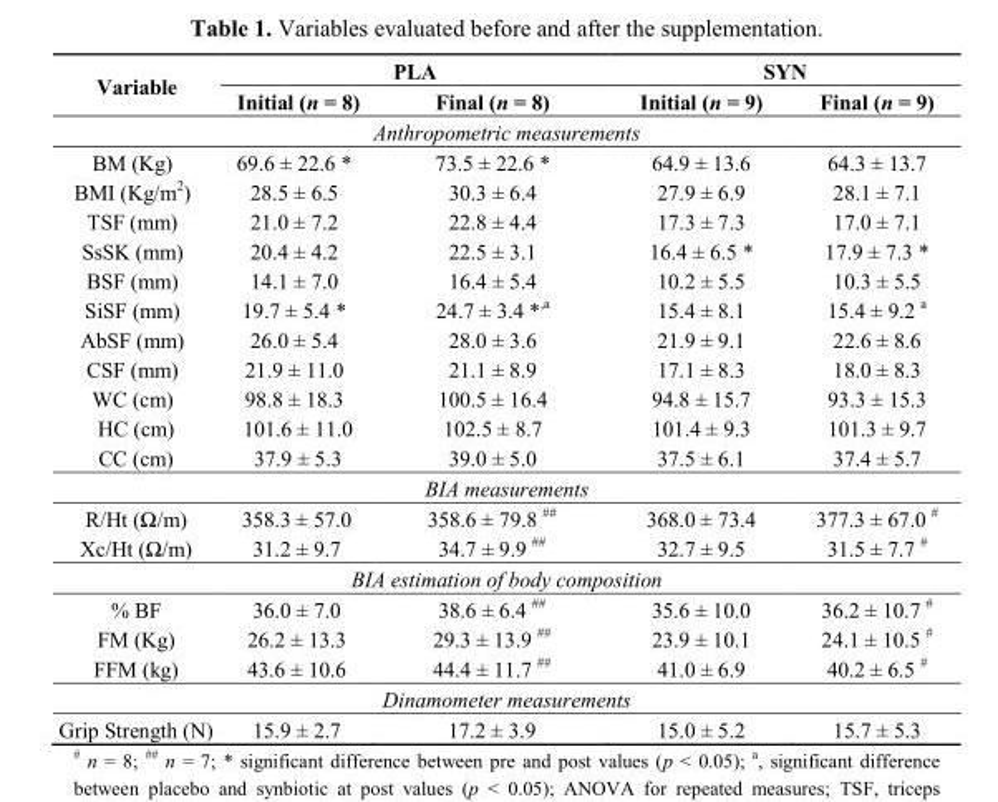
<table><thead><tr><td rowspan="2">Variable</td><td colspan="2">PLA</td><td colspan="2">SYN</td></tr><tr><td>Initial (n = 8)</td><td>Final (n = 8)</td><td>Initial (n = 9)</td><td>Final (n = 9)</td></tr></thead><tbody><tr><td colspan="5">Anthropometric measurements</td></tr><tr><td>BM (Kg)</td><td>69.6 ± 22.6 *</td><td>73.5 ± 22.6 *</td><td>64.9 ± 13.6</td><td>64.3 ± 13.7</td></tr><tr><td>BMI (Kg/m<sup>2</sup>)</td><td>28.5 ± 6.5</td><td>30.3 ± 6.4</td><td>27.9 ± 6.9</td><td>28.1 ± 7.1</td></tr><tr><td>TSF (mm)</td><td>21.0 ± 7.2</td><td>22.8 ± 4.4</td><td>17.3 ± 7.3</td><td>17.0 ± 7.1</td></tr><tr><td>SsSK (mm)</td><td>20.4 ± 4.2</td><td>22.5 ± 3.1</td><td>16.4 ± 6.5 *</td><td>17.9 ± 7.3 *</td></tr><tr><td>BSF (mm)</td><td>14.1 ± 7.0</td><td>16.4 ± 5.4</td><td>10.2 ± 5.5</td><td>10.3 ± 5.5</td></tr><tr><td>SiSF (mm)</td><td>19.7 ± 5.4 *</td><td>24.7 ± 3.4 *<sup>,a</sup></td><td>15.4 ± 8.1</td><td>15.4 ± 9.2 <sup>a</sup></td></tr><tr><td>AbSF (mm)</td><td>26.0 ± 5.4</td><td>28.0 ± 3.6</td><td>21.9 ± 9.1</td><td>22.6 ± 8.6</td></tr><tr><td>CSF (mm)</td><td>21.9 ± 11.0</td><td>21.1 ± 8.9</td><td>17.1 ± 8.3</td><td>18.0 ± 8.3</td></tr><tr><td>WC (cm)</td><td>98.8 ± 18.3</td><td>100.5 ± 16.4</td><td>94.8 ± 15.7</td><td>93.3 ± 15.3</td></tr><tr><td>HC (cm)</td><td>101.6 ± 11.0</td><td>102.5 ± 8.7</td><td>101.4 ± 9.3</td><td>101.3 ± 9.7</td></tr><tr><td>CC (cm)</td><td>37.9 ± 5.3</td><td>39.0 ± 5.0</td><td>37.5 ± 6.1</td><td>37.4 ± 5.7</td></tr><tr><td colspan="5">BIA measurements</td></tr><tr><td>R/Ht (Ω/m)</td><td>358.3 ± 57.0</td><td>358.6 ± 79.8 <sup>##</sup></td><td>368.0 ± 73.4</td><td>377.3 ± 67.0 <sup>#</sup></td></tr><tr><td>Xc/Ht (Ω/m)</td><td>31.2 ± 9.7</td><td>34.7 ± 9.9 <sup>##</sup></td><td>32.7 ± 9.5</td><td>31.5 ± 7.7 <sup>#</sup></td></tr><tr><td colspan="5">BIA estimation of body composition</td></tr><tr><td>% BF</td><td>36.0 ± 7.0</td><td>38.6 ± 6.4 <sup>##</sup></td><td>35.6 ± 10.0</td><td>36.2 ± 10.7 <sup>#</sup></td></tr><tr><td>FM (Kg)</td><td>26.2 ± 13.3</td><td>29.3 ± 13.9 <sup>##</sup></td><td>23.9 ± 10.1</td><td>24.1 ± 10.5 <sup>#</sup></td></tr><tr><td>FFM (kg)</td><td>43.6 ± 10.6</td><td>44.4 ± 11.7 <sup>##</sup></td><td>41.0 ± 6.9</td><td>40.2 ± 6.5 <sup>#</sup></td></tr><tr><td colspan="5">Dinamometer measurements</td></tr><tr><td>Grip Strength (N)</td><td>15.9 ± 2.7</td><td>17.2 ± 3.9</td><td>15.0 ± 5.2</td><td>15.7 ± 5.3</td></tr></tbody></table>